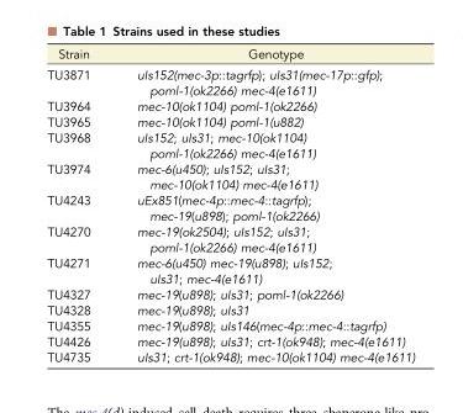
<table><thead><tr><td>Strain</td><td>Genotype</td></tr></thead><tbody><tr><td>TU3871</td><td>uIs152(mec-3p::tagrfp); uIs31(mec-17p::gfp); poml-1(ok2266) mec-4(e1611)</td></tr><tr><td>TU3964</td><td>mec-10(ok1104) poml-1(ok2266)</td></tr><tr><td>TU3965</td><td>mec-10(ok1104) poml-1(u882)</td></tr><tr><td>TU3968</td><td>uIs152; uIs31; mec-10(ok1104) poml-1(ok2266) mec-4(e1611)</td></tr><tr><td>TU3974</td><td>mec-6(u450); uIs152; uIs31; mec-10(ok1104) mec-4(e1611)</td></tr><tr><td>TU4243</td><td>uEx851(mec-4p::mec-4::tagrfp); mec-19(u898); poml-1(ok2266)</td></tr><tr><td>TU4270</td><td>mec-19(ok2504); uIs152; uIs31; poml-1(ok2266) mec-4(e1611)</td></tr><tr><td>TU4271</td><td>mec-6(u450) mec-19(u898); uIs152; uIs31; mec-4(e1611)</td></tr><tr><td>TU4327</td><td>mec-19(u898); uIs31; poml-1(ok2266)</td></tr><tr><td>TU4328</td><td>mec-19(u898); uIs31</td></tr><tr><td>TU4355</td><td>mec-19(u898); uIs146(mec-4p::mec-4::tagrfp)</td></tr><tr><td>TU4426</td><td>mec-19(u898); uIs31; crt-1(ok948); mec-4(e1611)</td></tr><tr><td>TU4735</td><td>uIs31; crt-1(ok948); mec-10(ok1104) mec-4(e1611)</td></tr></tbody></table>